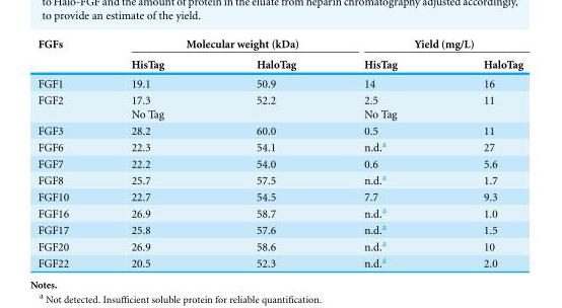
<table><thead><tr><td rowspan="2">FGFs</td><td colspan="2">Molecular weight (kDa)</td><td colspan="2">Yield (mg/L)</td></tr><tr><td>HisTag</td><td>HaloTag</td><td>HisTag</td><td>HaloTag</td></tr></thead><tbody><tr><td>FGF1</td><td>19.1</td><td>50.9</td><td>14</td><td>16</td></tr><tr><td>FGF2</td><td>17.3 No Tag</td><td>52.2</td><td>2.5 No Tag</td><td>11</td></tr><tr><td>FGF3</td><td>28.2</td><td>60.0</td><td>0.5</td><td>11</td></tr><tr><td>FGF6</td><td>22.3</td><td>54.1</td><td>n.d.<sup>a</sup></td><td>27</td></tr><tr><td>FGF7</td><td>22.2</td><td>54.0</td><td>0.6</td><td>5.6</td></tr><tr><td>FGF8</td><td>25.7</td><td>57.5</td><td>n.d.<sup>a</sup></td><td>1.7</td></tr><tr><td>FGF10</td><td>22.7</td><td>54.5</td><td>7.7</td><td>9.3</td></tr><tr><td>FGF16</td><td>26.9</td><td>58.7</td><td>n.d.<sup>a</sup></td><td>1.0</td></tr><tr><td>FGF17</td><td>25.8</td><td>57.6</td><td>n.d.<sup>a</sup></td><td>1.5</td></tr><tr><td>FGF20</td><td>26.9</td><td>58.6</td><td>n.d.<sup>a</sup></td><td>10</td></tr><tr><td>FGF22</td><td>20.5</td><td>52.3</td><td>n.d.<sup>a</sup></td><td>2.0</td></tr></tbody></table>